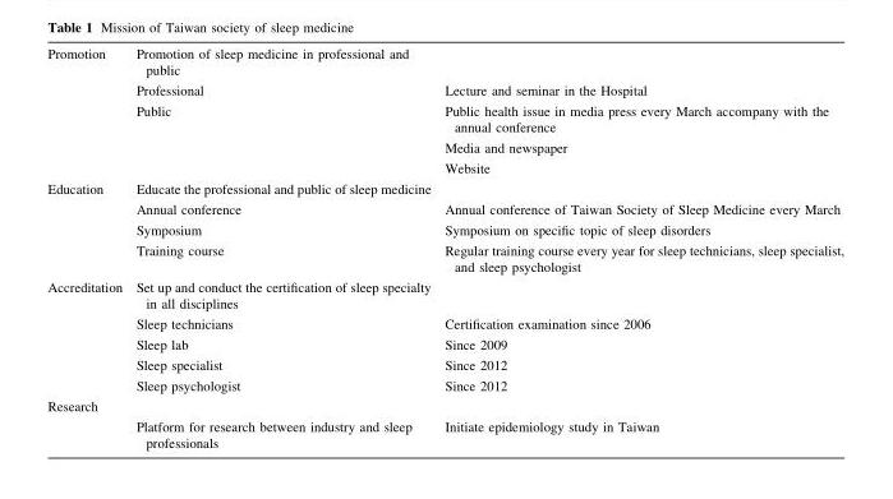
<table><tbody><tr><td rowspan="5">Promotion</td><td>Promotion of sleep medicine in professional and public</td><td></td></tr><tr><td>Professional</td><td>Lecture and seminar in the Hospital</td></tr><tr><td>Public</td><td>Public health issue in media press every March accompany with the annual conference</td></tr><tr><td></td><td>Media and newspaper</td></tr><tr><td></td><td>Website</td></tr><tr><td rowspan="4">Education</td><td>Educate the professional and public of sleep medicine</td><td></td></tr><tr><td>Annual conference</td><td>Annual conference of Taiwan Society of Sleep Medicine every March</td></tr><tr><td>Symposium</td><td>Symposium on specific topic of sleep disorders</td></tr><tr><td>Training course</td><td>Regular training course every year for sleep technicians, sleep specialist, and sleep psychologist</td></tr><tr><td rowspan="5">Accreditation</td><td>Set up and conduct the certification of sleep specialty in all disciplines</td><td></td></tr><tr><td>Sleep technicians</td><td>Certification examination since 2006</td></tr><tr><td>Sleep lab</td><td>Since 2009</td></tr><tr><td>Sleep specialist</td><td>Since 2012</td></tr><tr><td>Sleep psychologist</td><td>Since 2012</td></tr><tr><td colspan="3">Research</td></tr><tr><td></td><td>Platform for research between industry and sleep professionals</td><td>Initiate epidemiology study in Taiwan</td></tr></tbody></table>